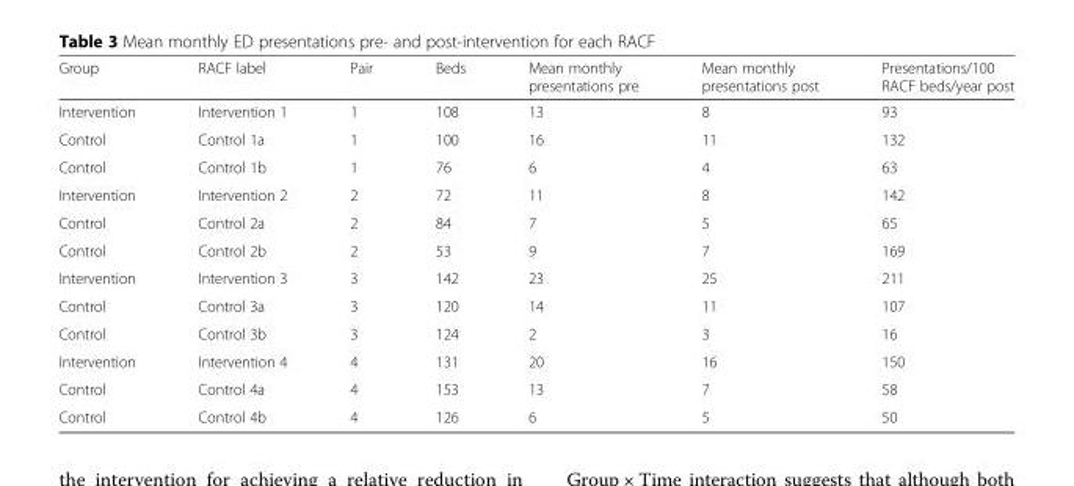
<table><thead><tr><td>Group</td><td>RACF label</td><td>Pair</td><td>Beds</td><td>Mean monthly presentations pre</td><td>Mean monthly presentations post</td><td>Presentations/100 RACF beds/year post</td></tr></thead><tbody><tr><td>Intervention</td><td>Intervention 1</td><td>1</td><td>108</td><td>13</td><td>8</td><td>93</td></tr><tr><td>Control</td><td>Control 1a</td><td>1</td><td>100</td><td>16</td><td>11</td><td>132</td></tr><tr><td>Control</td><td>Control 1b</td><td>1</td><td>76</td><td>6</td><td>4</td><td>63</td></tr><tr><td>Intervention</td><td>Intervention 2</td><td>2</td><td>72</td><td>11</td><td>8</td><td>142</td></tr><tr><td>Control</td><td>Control 2a</td><td>2</td><td>84</td><td>7</td><td>5</td><td>65</td></tr><tr><td>Control</td><td>Control 2b</td><td>2</td><td>53</td><td>9</td><td>7</td><td>169</td></tr><tr><td>Intervention</td><td>Intervention 3</td><td>3</td><td>142</td><td>23</td><td>25</td><td>211</td></tr><tr><td>Control</td><td>Control 3a</td><td>3</td><td>120</td><td>14</td><td>11</td><td>107</td></tr><tr><td>Control</td><td>Control 3b</td><td>3</td><td>124</td><td>2</td><td>3</td><td>16</td></tr><tr><td>Intervention</td><td>Intervention 4</td><td>4</td><td>131</td><td>20</td><td>16</td><td>150</td></tr><tr><td>Control</td><td>Control 4a</td><td>4</td><td>153</td><td>13</td><td>7</td><td>58</td></tr><tr><td>Control</td><td>Control 4b</td><td>4</td><td>126</td><td>6</td><td>5</td><td>50</td></tr></tbody></table>